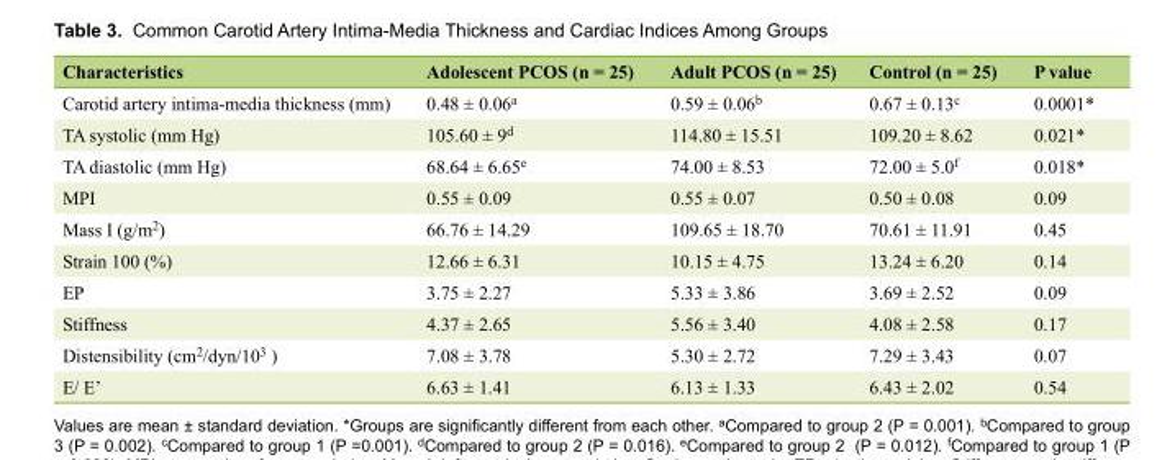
<table><thead><tr><td>Characteristics</td><td>Adolescent PCOS (n = 25)</td><td>Adult PCOS (n = 25)</td><td>Control (n = 25)</td><td>P value</td></tr></thead><tbody><tr><td>Carotid artery intima-media thickness (mm)</td><td>0.48 ± 0.06<sup>a</sup></td><td>0.59 ± 0.06<sup>b</sup></td><td>0.67 ± 0.13<sup>c</sup></td><td>0.0001*</td></tr><tr><td>TA systolic (mm Hg)</td><td>105.60 ± 9<sup>d</sup></td><td>114.80 ± 15.51</td><td>109.20 ± 8.62</td><td>0.021*</td></tr><tr><td>TA diastolic (mm Hg)</td><td>68.64 ± 6.65<sup>e</sup></td><td>74.00 ± 8.53</td><td>72.00 ± 5.0<sup>f</sup></td><td>0.018*</td></tr><tr><td>MPI</td><td>0.55 ± 0.09</td><td>0.55 ± 0.07</td><td>0.50 ± 0.08</td><td>0.09</td></tr><tr><td>Mass I (g/m<sup>2</sup>)</td><td>66.76 ± 14.29</td><td>109.65 ± 18.70</td><td>70.61 ± 11.91</td><td>0.45</td></tr><tr><td>Strain 100 (%)</td><td>12.66 ± 6.31</td><td>10.15 ± 4.75</td><td>13.24 ± 6.20</td><td>0.14</td></tr><tr><td>EP</td><td>3.75 ± 2.27</td><td>5.33 ± 3.86</td><td>3.69 ± 2.52</td><td>0.09</td></tr><tr><td>Stiffness</td><td>4.37 ± 2.65</td><td>5.56 ± 3.40</td><td>4.08 ± 2.58</td><td>0.17</td></tr><tr><td>Distensibility (cm<sup>2</sup>/dyn/10<sup>3</sup> )</td><td>7.08 ± 3.78</td><td>5.30 ± 2.72</td><td>7.29 ± 3.43</td><td>0.07</td></tr><tr><td>E/ E’</td><td>6.63 ± 1.41</td><td>6.13 ± 1.33</td><td>6.43 ± 2.02</td><td>0.54</td></tr></tbody></table>